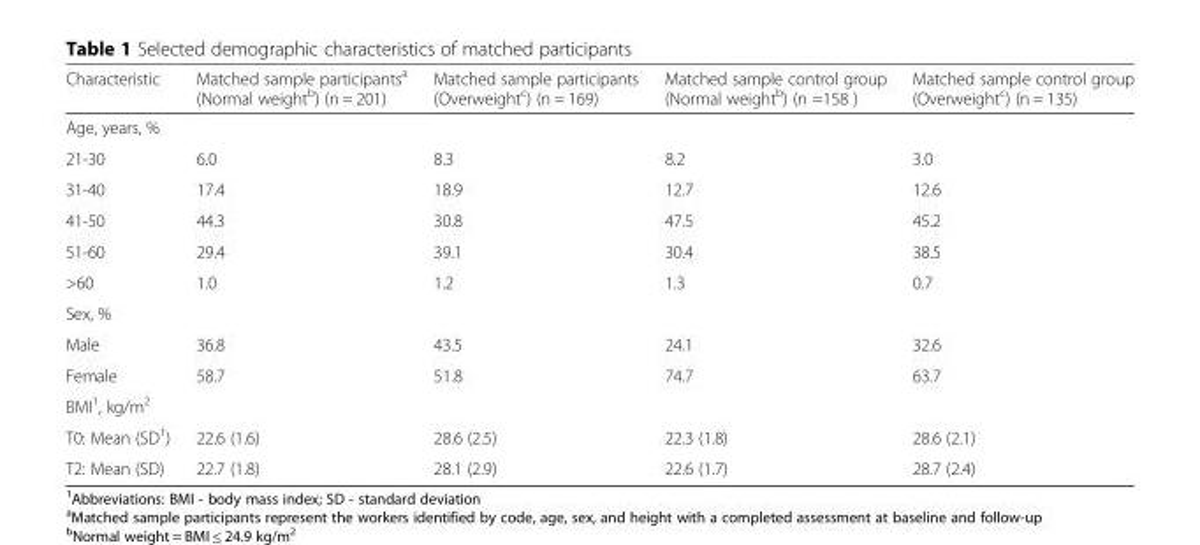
<table><thead><tr><td>Characteristic</td><td>Matched sample participants<sup>a</sup> (Normal weight<sup>b</sup>) (n = 201)</td><td>Matched sample participants (Overweight<sup>c</sup>) (n = 169)</td><td>Matched sample control group (Normal weight<sup>b</sup>) (n =158 )</td><td>Matched sample control group (Overweight<sup>c</sup>) (n = 135)</td></tr></thead><tbody><tr><td colspan="5">Age, years, %</td></tr><tr><td>21-30</td><td>6.0</td><td>8.3</td><td>8.2</td><td>3.0</td></tr><tr><td>31-40</td><td>17.4</td><td>18.9</td><td>12.7</td><td>12.6</td></tr><tr><td>41-50</td><td>44.3</td><td>30.8</td><td>47.5</td><td>45.2</td></tr><tr><td>51-60</td><td>29.4</td><td>39.1</td><td>30.4</td><td>38.5</td></tr><tr><td>&gt;60</td><td>1.0</td><td>1.2</td><td>1.3</td><td>0.7</td></tr><tr><td colspan="5">Sex, %</td></tr><tr><td>Male</td><td>36.8</td><td>43.5</td><td>24.1</td><td>32.6</td></tr><tr><td>Female</td><td>58.7</td><td>51.8</td><td>74.7</td><td>63.7</td></tr><tr><td colspan="5">BMI<sup>1</sup>, kg/m<sup>2</sup></td></tr><tr><td>T0: Mean (SD<sup>1</sup>)</td><td>22.6 (1.6)</td><td>28.6 (2.5)</td><td>22.3 (1.8)</td><td>28.6 (2.1)</td></tr><tr><td>T2: Mean (SD)</td><td>22.7 (1.8)</td><td>28.1 (2.9)</td><td>22.6 (1.7)</td><td>28.7 (2.4)</td></tr></tbody></table>